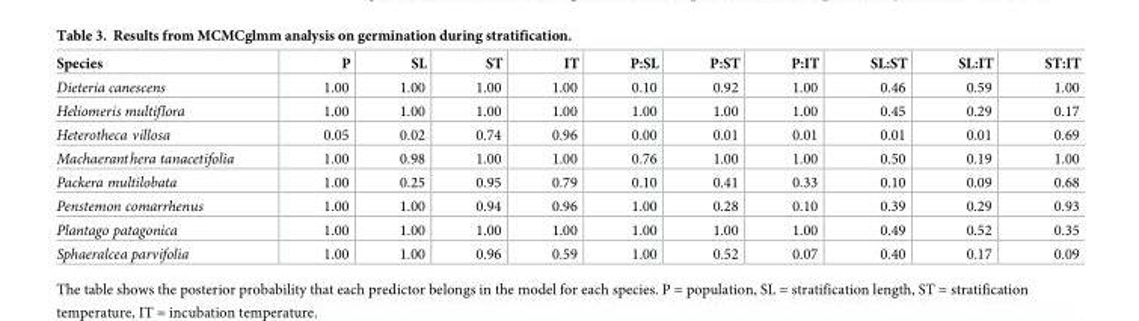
<table><thead><tr><td>Species</td><td>P</td><td>SL</td><td>ST</td><td>IT</td><td>P:SL</td><td>P:ST</td><td>P:IT</td><td>SL:ST</td><td>SL:IT</td><td>ST:IT</td></tr></thead><tbody><tr><td>Dieteria canescens</td><td>1.00</td><td>1.00</td><td>1.00</td><td>1.00</td><td>0.10</td><td>0.92</td><td>1.00</td><td>0.46</td><td>0.59</td><td>1.00</td></tr><tr><td>Heliomeris multiflora</td><td>1.00</td><td>1.00</td><td>1.00</td><td>1.00</td><td>1.00</td><td>1.00</td><td>1.00</td><td>0.45</td><td>0.29</td><td>0.17</td></tr><tr><td>Heterotheca villosa</td><td>0.05</td><td>0.02</td><td>0.74</td><td>0.96</td><td>0.00</td><td>0.01</td><td>0.01</td><td>0.01</td><td>0.01</td><td>0.69</td></tr><tr><td>Machaeranthera tanacetifolia</td><td>1.00</td><td>0.98</td><td>1.00</td><td>1.00</td><td>0.76</td><td>1.00</td><td>1.00</td><td>0.50</td><td>0.19</td><td>1.00</td></tr><tr><td>Packera multilobata</td><td>1.00</td><td>0.25</td><td>0.95</td><td>0.79</td><td>0.10</td><td>0.41</td><td>0.33</td><td>0.10</td><td>0.09</td><td>0.68</td></tr><tr><td>Penstemon comarrhenus</td><td>1.00</td><td>1.00</td><td>0.94</td><td>0.96</td><td>1.00</td><td>0.28</td><td>0.10</td><td>0.39</td><td>0.29</td><td>0.93</td></tr><tr><td>Plantago patagonica</td><td>1.00</td><td>1.00</td><td>1.00</td><td>1.00</td><td>1.00</td><td>1.00</td><td>1.00</td><td>0.49</td><td>0.52</td><td>0.35</td></tr><tr><td>Sphaeralcea parvifolia</td><td>1.00</td><td>1.00</td><td>0.96</td><td>0.59</td><td>1.00</td><td>0.52</td><td>0.07</td><td>0.40</td><td>0.17</td><td>0.09</td></tr></tbody></table>